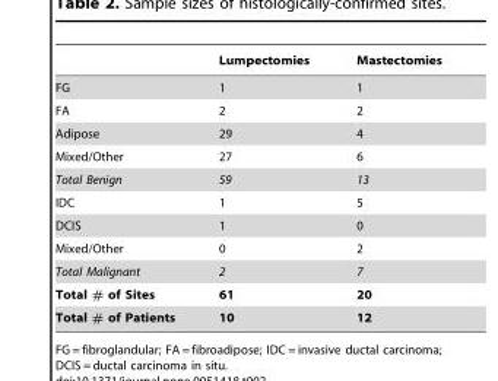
<table><thead><tr><td></td><td>Lumpectomies</td><td>Mastectomies</td></tr></thead><tbody><tr><td>FG</td><td>1</td><td>1</td></tr><tr><td>FA</td><td>2</td><td>2</td></tr><tr><td>Adipose</td><td>29</td><td>4</td></tr><tr><td>Mixed/Other</td><td>27</td><td>6</td></tr><tr><td>Total Benign</td><td>59</td><td>13</td></tr><tr><td>IDC</td><td>1</td><td>5</td></tr><tr><td>DCIS</td><td>1</td><td>0</td></tr><tr><td>Mixed/Other</td><td>0</td><td>2</td></tr><tr><td>Total Malignant</td><td>2</td><td>7</td></tr><tr><td>Total # of Sites</td><td>61</td><td>20</td></tr><tr><td>Total # of Patients</td><td>10</td><td>12</td></tr></tbody></table>